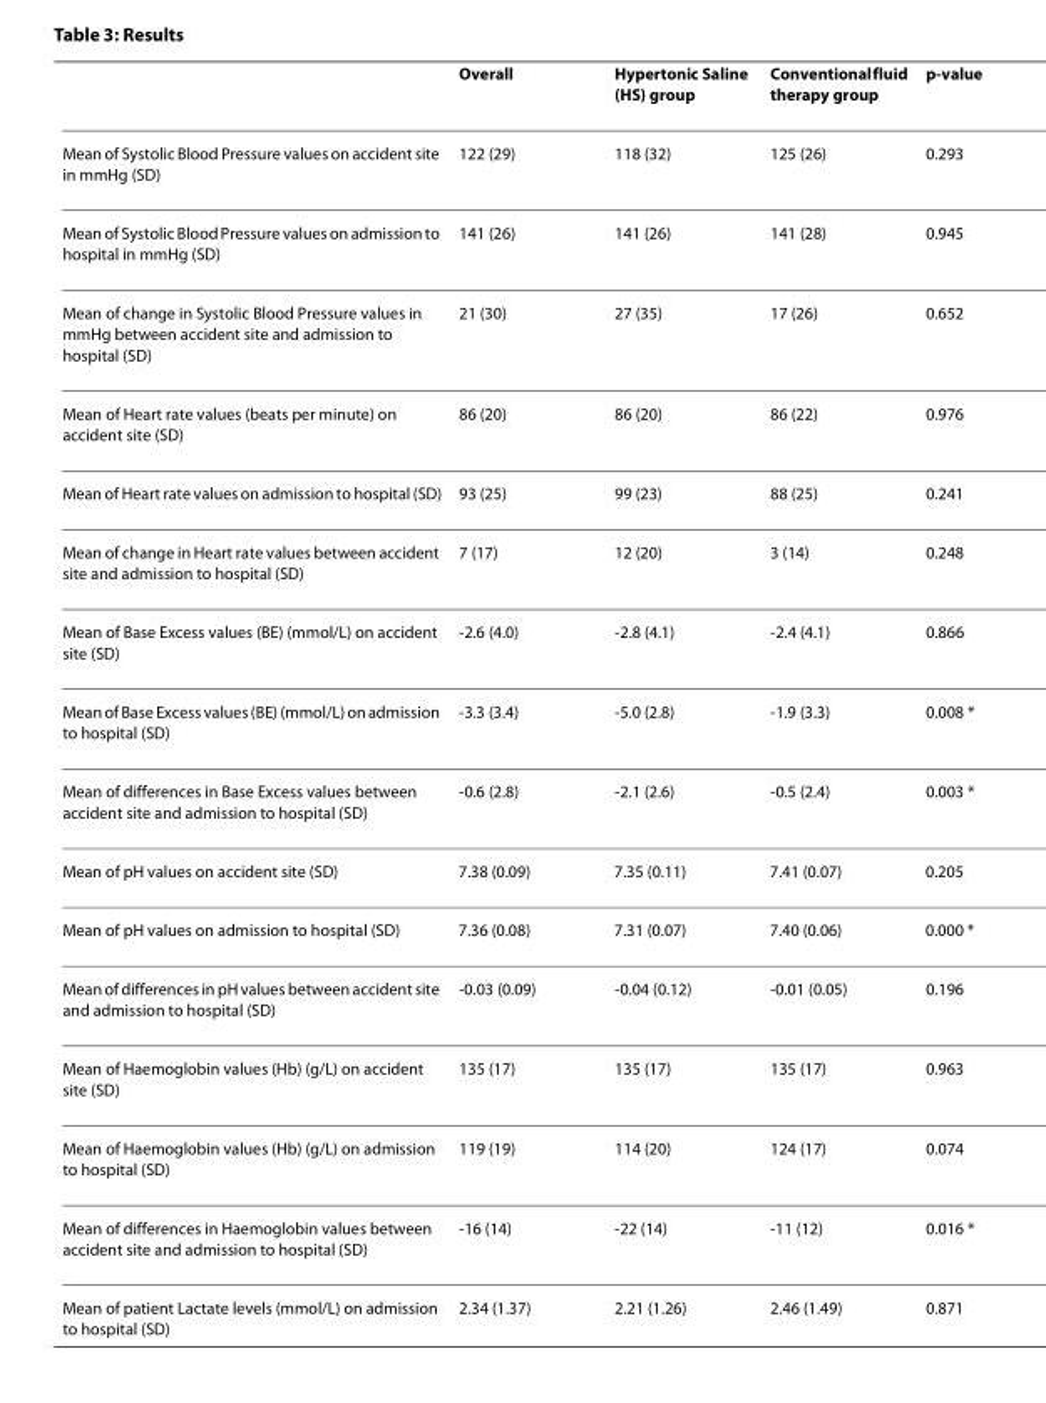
<table><thead><tr><td></td><td>Overall</td><td>Hypertonic Saline (HS) group</td><td>Conventional fluid therapy group</td><td>p-value</td></tr></thead><tbody><tr><td>Mean of Systolic Blood Pressure values on accident site in mmHg (SD)</td><td>122 (29)</td><td>118 (32)</td><td>125 (26)</td><td>0.293</td></tr><tr><td>Mean of Systolic Blood Pressure values on admission to hospital in mmHg (SD)</td><td>141 (26)</td><td>141 (26)</td><td>141 (28)</td><td>0.945</td></tr><tr><td>Mean of change in Systolic Blood Pressure values in mmHg between accident site and admission to hospital (SD)</td><td>21 (30)</td><td>27 (35)</td><td>17 (26)</td><td>0.652</td></tr><tr><td>Mean of Heart rate values (beats per minute) on accident site (SD)</td><td>86 (20)</td><td>86 (20)</td><td>86 (22)</td><td>0.976</td></tr><tr><td>Mean of Heart rate values on admission to hospital (SD)</td><td>93 (25)</td><td>99 (23)</td><td>88 (25)</td><td>0.241</td></tr><tr><td>Mean of change in Heart rate values between accident site and admission to hospital (SD)</td><td>7 (17)</td><td>12 (20)</td><td>3 (14)</td><td>0.248</td></tr><tr><td>Mean of Base Excess values (BE) (mmol/L) on accident site (SD)</td><td>-2.6 (4.0)</td><td>-2.8 (4.1)</td><td>-2.4 (4.1)</td><td>0.866</td></tr><tr><td>Mean of Base Excess values (BE) (mmol/L) on admission to hospital (SD)</td><td>-3.3 (3.4)</td><td>-5.0 (2.8)</td><td>-1.9 (3.3)</td><td>0.008 *</td></tr><tr><td>Mean of differences in Base Excess values between accident site and admission to hospital (SD)</td><td>-0.6 (2.8)</td><td>-2.1 (2.6)</td><td>-0.5 (2.4)</td><td>0.003 *</td></tr><tr><td>Mean of pH values on accident site (SD)</td><td>7.38 (0.09)</td><td>7.35 (0.11)</td><td>7.41 (0.07)</td><td>0.205</td></tr><tr><td>Mean of pH values on admission to hospital (SD)</td><td>7.36 (0.08)</td><td>7.31 (0.07)</td><td>7.40 (0.06)</td><td>0.000 *</td></tr><tr><td>Mean of differences in pH values between accident site and admission to hospital (SD)</td><td>-0.03 (0.09)</td><td>-0.04 (0.12)</td><td>-0.01 (0.05)</td><td>0.196</td></tr><tr><td>Mean of Haemoglobin values (Hb) (g/L) on accident site (SD)</td><td>135 (17)</td><td>135 (17)</td><td>135 (17)</td><td>0.963</td></tr><tr><td>Mean of Haemoglobin values (Hb) (g/L) on admission to hospital (SD)</td><td>119 (19)</td><td>114 (20)</td><td>124 (17)</td><td>0.074</td></tr><tr><td>Mean of differences in Haemoglobin values between accident site and admission to hospital (SD)</td><td>-16 (14)</td><td>-22 (14)</td><td>-11 (12)</td><td>0.016 *</td></tr><tr><td>Mean of patient Lactate levels (mmol/L) on admission to hospital (SD)</td><td>2.34 (1.37)</td><td>2.21 (1.26)</td><td>2.46 (1.49)</td><td>0.871</td></tr></tbody></table>